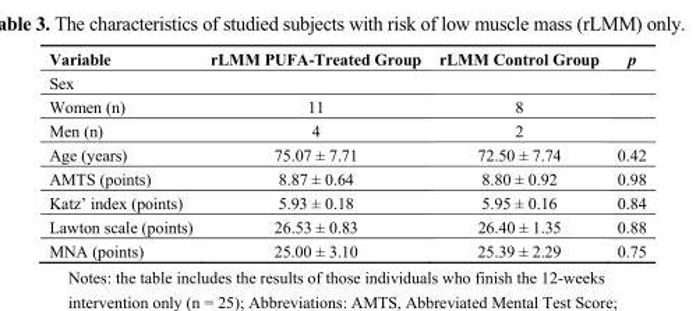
<table><thead><tr><td>Variable</td><td>rLMM PUFA-Treated Group</td><td>rLMM Control Group</td><td>p</td></tr></thead><tbody><tr><td colspan="4">Sex</td></tr><tr><td>Women (n)</td><td>11</td><td>8</td><td></td></tr><tr><td>Men (n)</td><td>4</td><td>2</td><td></td></tr><tr><td>Age (years)</td><td>75.07 ± 7.71</td><td>72.50 ± 7.74</td><td>0.42</td></tr><tr><td>AMTS (points)</td><td>8.87 ± 0.64</td><td>8.80 ± 0.92</td><td>0.98</td></tr><tr><td>Katz’ index (points)</td><td>5.93 ± 0.18</td><td>5.95 ± 0.16</td><td>0.84</td></tr><tr><td>Lawton scale (points)</td><td>26.53 ± 0.83</td><td>26.40 ± 1.35</td><td>0.88</td></tr><tr><td>MNA (points)</td><td>25.00 ± 3.10</td><td>25.39 ± 2.29</td><td>0.75</td></tr></tbody></table>